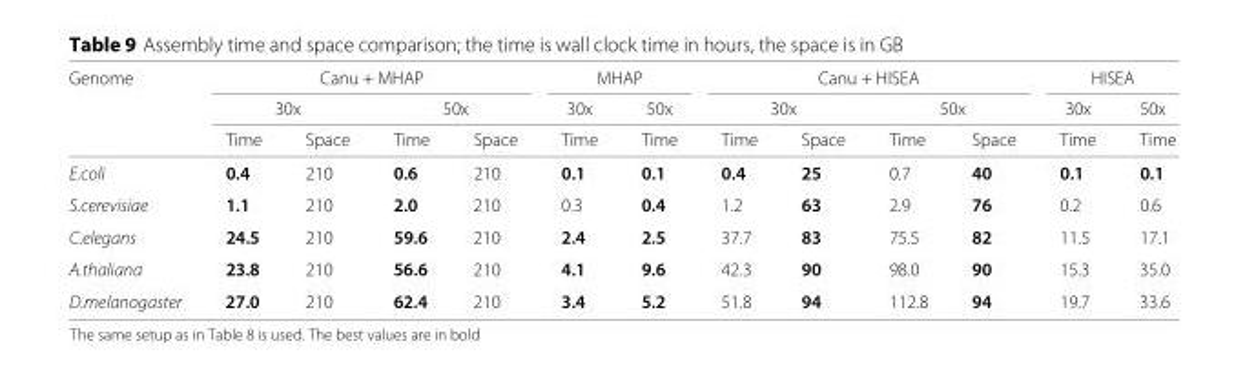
<table><thead><tr><td rowspan="3">Genome</td><td colspan="4">Canu + MHAP</td><td colspan="2">MHAP</td><td colspan="4">Canu + HISEA</td><td colspan="2">HISEA</td></tr><tr><td colspan="2">30x</td><td colspan="2">50x</td><td rowspan="2">30x Time</td><td rowspan="2">50x Time</td><td colspan="2">30x</td><td colspan="2">50x</td><td rowspan="2">30x Time</td><td rowspan="2">50x Time</td></tr><tr><td>Time</td><td>Space</td><td>Time</td><td>Space</td><td>Time</td><td>Space</td><td>Time</td><td>Space</td></tr></thead><tbody><tr><td>E.coli</td><td>0.4</td><td>210</td><td>0.6</td><td>210</td><td>0.1</td><td>0.1</td><td>0.4</td><td>25</td><td>0.7</td><td>40</td><td>0.1</td><td>0.1</td></tr><tr><td>S.cerevisiae</td><td>1.1</td><td>210</td><td>2.0</td><td>210</td><td>0.3</td><td>0.4</td><td>1.2</td><td>63</td><td>2.9</td><td>76</td><td>0.2</td><td>0.6</td></tr><tr><td>C.elegans</td><td>24.5</td><td>210</td><td>59.6</td><td>210</td><td>2.4</td><td>2.5</td><td>37.7</td><td>83</td><td>75.5</td><td>82</td><td>11.5</td><td>17.1</td></tr><tr><td>A.thaliana</td><td>23.8</td><td>210</td><td>56.6</td><td>210</td><td>4.1</td><td>9.6</td><td>42.3</td><td>90</td><td>98.0</td><td>90</td><td>15.3</td><td>35.0</td></tr><tr><td>D.melanogaster</td><td>27.0</td><td>210</td><td>62.4</td><td>210</td><td>3.4</td><td>5.2</td><td>51.8</td><td>94</td><td>112.8</td><td>94</td><td>19.7</td><td>33.6</td></tr></tbody></table>